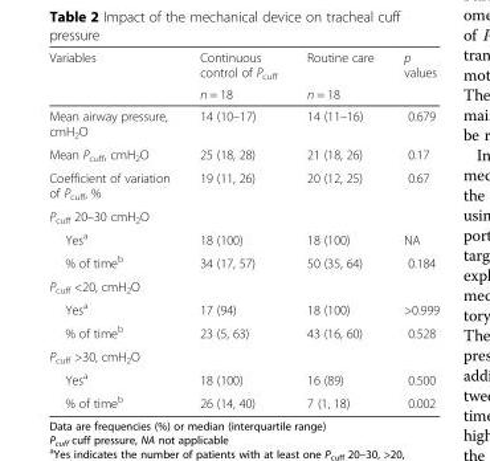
<table><thead><tr><td rowspan="2">Variables</td><td rowspan="2">Continuous control of P<sub>cuff</sub> n = 18</td><td rowspan="2">Routine care n = 18</td><td rowspan="2">p values</td></tr><tr></tr></thead><tbody><tr><td>Mean airway pressure, cmH<sub>2</sub>O</td><td>14 (10–17)</td><td>14 (11–16)</td><td>0.679</td></tr><tr><td>Mean P<sub>cuff</sub>, cmH<sub>2</sub>O</td><td>25 (18, 28)</td><td>21 (18, 26)</td><td>0.17</td></tr><tr><td>Coefficient of variation of P<sub>cuff</sub>, %</td><td>19 (11, 26)</td><td>20 (12, 25)</td><td>0.67</td></tr><tr><td colspan="4">P<sub>cuff</sub> 20–30 cmH<sub>2</sub>O</td></tr><tr><td>Yes<sup>a</sup></td><td>18 (100)</td><td>18 (100)</td><td>NA</td></tr><tr><td>% of time<sup>b</sup></td><td>34 (17, 57)</td><td>50 (35, 64)</td><td>0.184</td></tr><tr><td colspan="4">P<sub>cuff</sub> &lt;20, cmH<sub>2</sub>O</td></tr><tr><td>Yes<sup>a</sup></td><td>17 (94)</td><td>18 (100)</td><td>&gt;0.999</td></tr><tr><td>% of time<sup>b</sup></td><td>23 (5, 63)</td><td>43 (16, 60)</td><td>0.528</td></tr><tr><td colspan="4">P<sub>cuff</sub> &gt;30, cmH<sub>2</sub>O</td></tr><tr><td>Yes<sup>a</sup></td><td>18 (100)</td><td>16 (89)</td><td>0.500</td></tr><tr><td>% of time<sup>b</sup></td><td>26 (14, 40)</td><td>7 (1, 18)</td><td>0.002</td></tr></tbody></table>